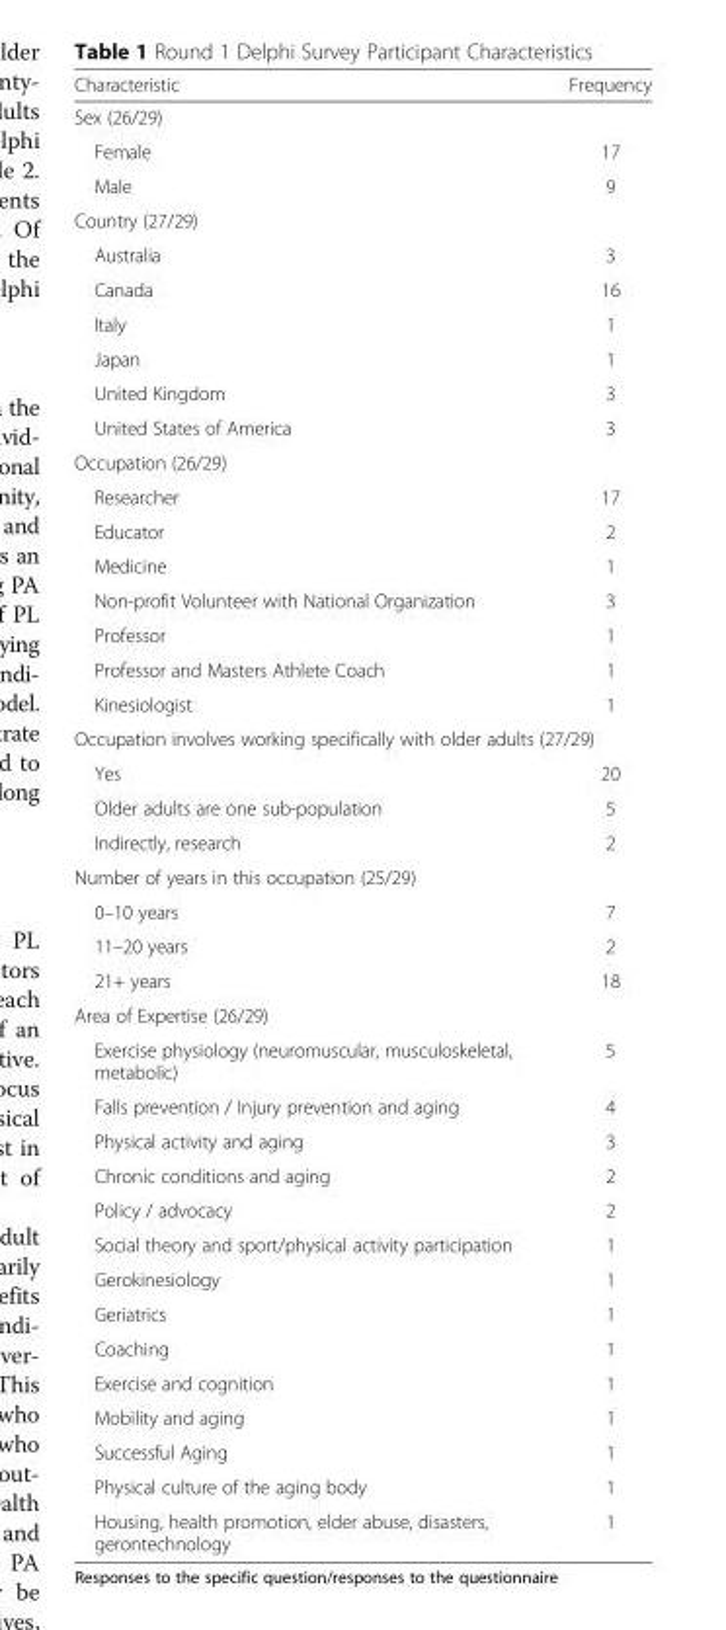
<table><thead><tr><td>Characteristic</td><td>Frequency</td></tr></thead><tbody><tr><td colspan="2">Sex (26/29)</td></tr><tr><td>Female</td><td>17</td></tr><tr><td>Male</td><td>9</td></tr><tr><td colspan="2">Country (27/29)</td></tr><tr><td>Australia</td><td>3</td></tr><tr><td>Canada</td><td>16</td></tr><tr><td>Italy</td><td>1</td></tr><tr><td>Japan</td><td>1</td></tr><tr><td>United Kingdom</td><td>3</td></tr><tr><td>United States of America</td><td>3</td></tr><tr><td colspan="2">Occupation (26/29)</td></tr><tr><td>Researcher</td><td>17</td></tr><tr><td>Educator</td><td>2</td></tr><tr><td>Medicine</td><td>1</td></tr><tr><td>Non-profit Volunteer with National Organization</td><td>3</td></tr><tr><td>Professor</td><td>1</td></tr><tr><td>Professor and Masters Athlete Coach</td><td>1</td></tr><tr><td>Kinesiologist</td><td>1</td></tr><tr><td colspan="2">Occupation involves working specifically with older adults (27/29)</td></tr><tr><td>Yes</td><td>20</td></tr><tr><td>Older adults are one sub-population</td><td>5</td></tr><tr><td>Indirectly, research</td><td>2</td></tr><tr><td colspan="2">Number of years in this occupation (25/29)</td></tr><tr><td>0–10 years</td><td>7</td></tr><tr><td>11–20 years</td><td>2</td></tr><tr><td>21+ years</td><td>18</td></tr><tr><td colspan="2">Area of Expertise (26/29)</td></tr><tr><td>Exercise physiology (neuromuscular, musculoskeletal, metabolic)</td><td>5</td></tr><tr><td>Falls prevention / Injury prevention and aging</td><td>4</td></tr><tr><td>Physical activity and aging</td><td>3</td></tr><tr><td>Chronic conditions and aging</td><td>2</td></tr><tr><td>Policy / advocacy</td><td>2</td></tr><tr><td>Social theory and sport/physical activity participation</td><td>1</td></tr><tr><td>Gerokinesiology</td><td>1</td></tr><tr><td>Geriatrics</td><td>1</td></tr><tr><td>Coaching</td><td>1</td></tr><tr><td>Exercise and cognition</td><td>1</td></tr><tr><td>Mobility and aging</td><td>1</td></tr><tr><td>Successful Aging</td><td>1</td></tr><tr><td>Physical culture of the aging body</td><td>1</td></tr><tr><td>Housing, health promotion, elder abuse, disasters, gerontechnology</td><td>1</td></tr></tbody></table>